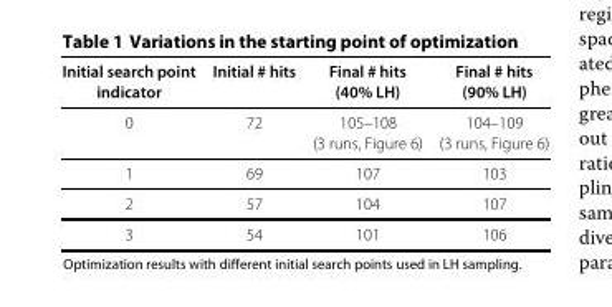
<table><thead><tr><td rowspan="2">Initial search point indicator</td><td rowspan="2">Initial # hits</td><td rowspan="2">Final # hits (40% LH)</td><td rowspan="2">Final # hits (90% LH)</td></tr><tr></tr></thead><tbody><tr><td rowspan="2">0</td><td>72</td><td>105–108</td><td>104–109</td></tr><tr><td></td><td>(3 runs, Figure 6)</td><td>(3 runs, Figure 6)</td></tr><tr><td>1</td><td>69</td><td>107</td><td>103</td></tr><tr><td>2</td><td>57</td><td>104</td><td>107</td></tr><tr><td>3</td><td>54</td><td>101</td><td>106</td></tr></tbody></table>